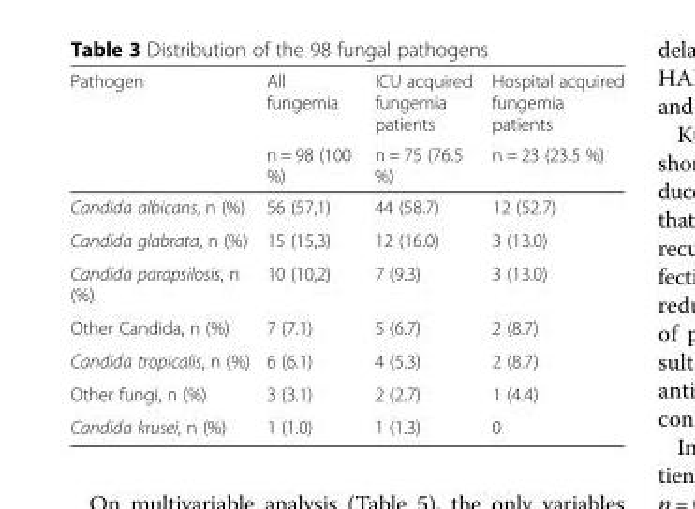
<table><thead><tr><td rowspan="2">Pathogen</td><td rowspan="2">All fungemia n = 98 (100 %)</td><td rowspan="2">ICU acquired fungemia patients n = 75 (76.5 %)</td><td rowspan="2">Hospital acquired fungemia patients n = 23 (23.5 %)</td></tr><tr></tr></thead><tbody><tr><td>Candida albicans, n (%)</td><td>56 (57,1)</td><td>44 (58.7)</td><td>12 (52.7)</td></tr><tr><td>Candida glabrata, n (%)</td><td>15 (15,3)</td><td>12 (16.0)</td><td>3 (13.0)</td></tr><tr><td>Candida parapsilosis, n (%)</td><td>10 (10,2)</td><td>7 (9.3)</td><td>3 (13.0)</td></tr><tr><td>Other Candida, n (%)</td><td>7 (7.1)</td><td>5 (6.7)</td><td>2 (8.7)</td></tr><tr><td>Candida tropicalis, n (%)</td><td>6 (6.1)</td><td>4 (5.3)</td><td>2 (8.7)</td></tr><tr><td>Other fungi, n (%)</td><td>3 (3.1)</td><td>2 (2.7)</td><td>1 (4.4)</td></tr><tr><td>Candida krusei, n (%)</td><td>1 (1.0)</td><td>1 (1.3)</td><td>0</td></tr></tbody></table>